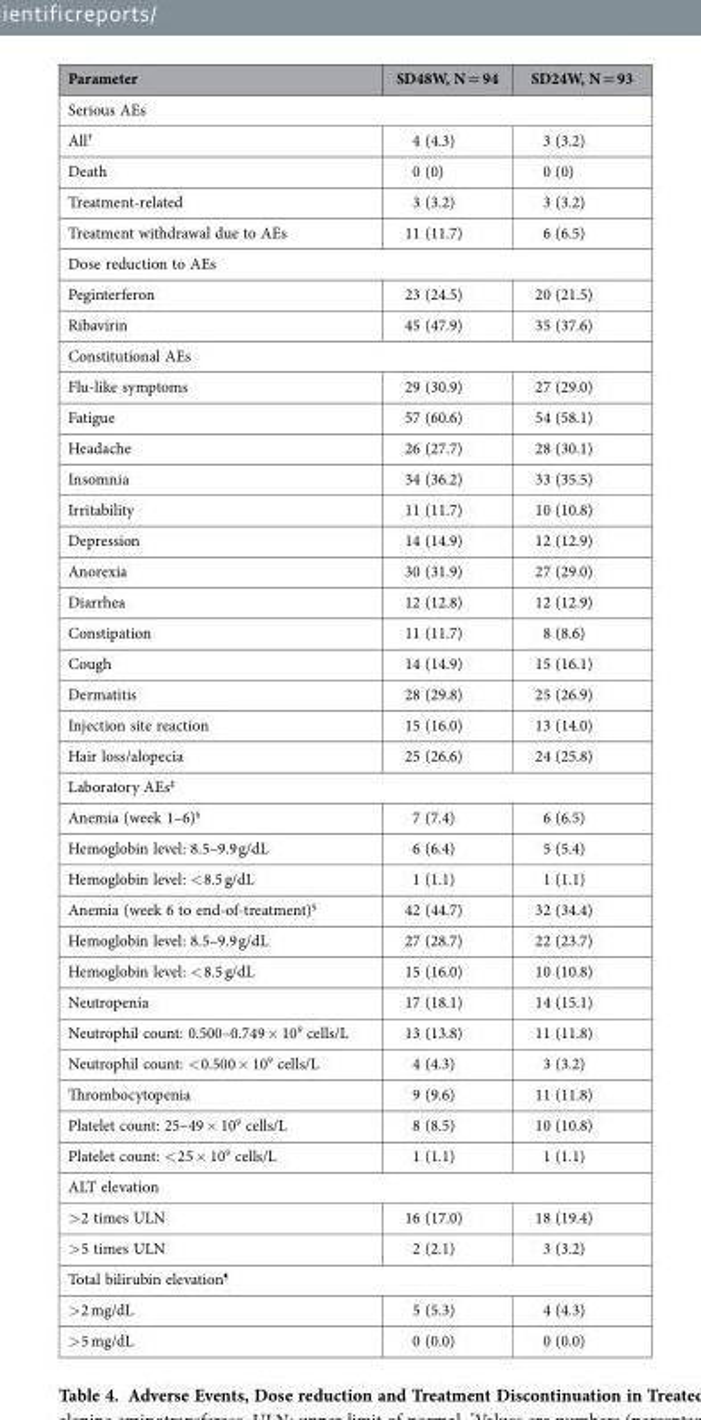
<table><thead><tr><td>Parameter</td><td>SD48W, N = 94</td><td>SD24W, N = 93</td></tr></thead><tbody><tr><td colspan="3">Serious AEs</td></tr><tr><td>All†</td><td>4 (4.3)</td><td>3 (3.2)</td></tr><tr><td>Death</td><td>0 (0)</td><td>0 (0)</td></tr><tr><td>Treatment-related</td><td>3 (3.2)</td><td>3 (3.2)</td></tr><tr><td>Treatment withdrawal due to AEs</td><td>11 (11.7)</td><td>6 (6.5)</td></tr><tr><td colspan="3">Dose reduction to AEs</td></tr><tr><td>Peginterferon</td><td>23 (24.5)</td><td>20 (21.5)</td></tr><tr><td>Ribavirin</td><td>45 (47.9)</td><td>35 (37.6)</td></tr><tr><td colspan="3">Constitutional AEs</td></tr><tr><td>Flu-like symptoms</td><td>29 (30.9)</td><td>27 (29.0)</td></tr><tr><td>Fatigue</td><td>57 (60.6)</td><td>54 (58.1)</td></tr><tr><td>Headache</td><td>26 (27.7)</td><td>28 (30.1)</td></tr><tr><td>Insomnia</td><td>34 (36.2)</td><td>33 (35.5)</td></tr><tr><td>Irritability</td><td>11 (11.7)</td><td>10 (10.8)</td></tr><tr><td>Depression</td><td>14 (14.9)</td><td>12 (12.9)</td></tr><tr><td>Anorexia</td><td>30 (31.9)</td><td>27 (29.0)</td></tr><tr><td>Diarrhea</td><td>12 (12.8)</td><td>12 (12.9)</td></tr><tr><td>Constipation</td><td>11 (11.7)</td><td>8 (8.6)</td></tr><tr><td>Cough</td><td>14 (14.9)</td><td>15 (16.1)</td></tr><tr><td>Dermatitis</td><td>28 (29.8)</td><td>25 (26.9)</td></tr><tr><td>Injection site reaction</td><td>15 (16.0)</td><td>13 (14.0)</td></tr><tr><td>Hair loss/alopecia</td><td>25 (26.6)</td><td>24 (25.8)</td></tr><tr><td colspan="3">Laboratory AEs‡</td></tr><tr><td>Anemia (week 1–6)§</td><td>7 (7.4)</td><td>6 (6.5)</td></tr><tr><td>Hemoglobin level: 8.5–9.9 g/dL</td><td>6 (6.4)</td><td>5 (5.4)</td></tr><tr><td>Hemoglobin level: &lt; 8.5 g/dL</td><td>1 (1.1)</td><td>1 (1.1)</td></tr><tr><td>Anemia (week 6 to end-of-treatment)§</td><td>42 (44.7)</td><td>32 (34.4)</td></tr><tr><td>Hemoglobin level: 8.5–9.9 g/dL</td><td>27 (28.7)</td><td>22 (23.7)</td></tr><tr><td>Hemoglobin level: &lt; 8.5 g/dL</td><td>15 (16.0)</td><td>10 (10.8)</td></tr><tr><td>Neutropenia</td><td>17 (18.1)</td><td>14 (15.1)</td></tr><tr><td>Neutrophil count: 0.500–0.749 × 10<sup>9</sup> cells/L</td><td>13 (13.8)</td><td>11 (11.8)</td></tr><tr><td>Neutrophil count: &lt; 0.500 × 10<sup>9</sup> cells/L</td><td>4 (4.3)</td><td>3 (3.2)</td></tr><tr><td>Thrombocytopenia</td><td>9 (9.6)</td><td>11 (11.8)</td></tr><tr><td>Platelet count: 25–49 × 10<sup>9</sup> cells/L</td><td>8 (8.5)</td><td>10 (10.8)</td></tr><tr><td>Platelet count: &lt; 25 × 10<sup>9</sup> cells/L</td><td>1 (1.1)</td><td>1 (1.1)</td></tr><tr><td colspan="3">ALT elevation</td></tr><tr><td>&gt; 2 times ULN</td><td>16 (17.0)</td><td>18 (19.4)</td></tr><tr><td>&gt; 5 times ULN</td><td>2 (2.1)</td><td>3 (3.2)</td></tr><tr><td colspan="3">Total bilirubin elevation¶</td></tr><tr><td>&gt; 2 mg/dL</td><td>5 (5.3)</td><td>4 (4.3)</td></tr><tr><td>&gt; 5 mg/dL</td><td>0 (0.0)</td><td>0 (0.0)</td></tr></tbody></table>